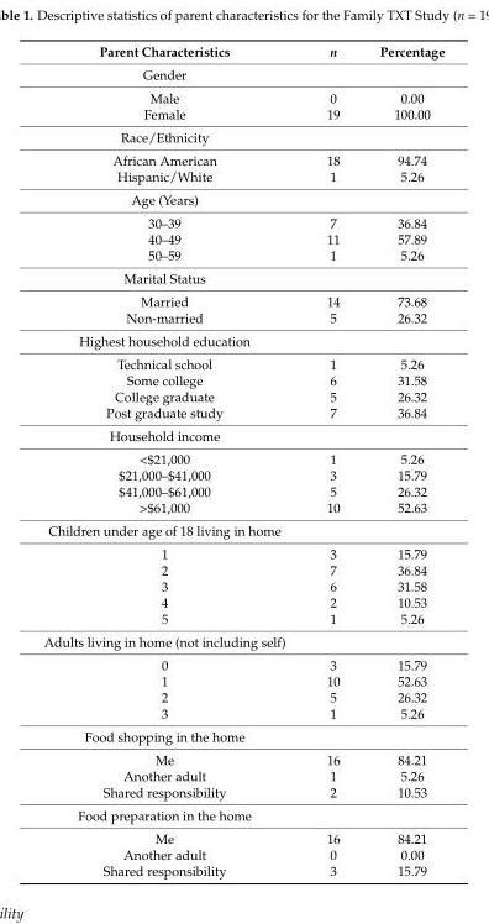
<table><thead><tr><td>Parent Characteristics</td><td>n</td><td>Percentage</td></tr></thead><tbody><tr><td colspan="3">Gender</td></tr><tr><td>Male</td><td>0</td><td>0.00</td></tr><tr><td>Female</td><td>19</td><td>100.00</td></tr><tr><td colspan="3">Race/Ethnicity</td></tr><tr><td>African American</td><td>18</td><td>94.74</td></tr><tr><td>Hispanic/White</td><td>1</td><td>5.26</td></tr><tr><td colspan="3">Age (Years)</td></tr><tr><td>30–39</td><td>7</td><td>36.84</td></tr><tr><td>40–49</td><td>11</td><td>57.89</td></tr><tr><td>50–59</td><td>1</td><td>5.26</td></tr><tr><td colspan="3">Marital Status</td></tr><tr><td>Married</td><td>14</td><td>73.68</td></tr><tr><td>Non-married</td><td>5</td><td>26.32</td></tr><tr><td colspan="3">Highest household education</td></tr><tr><td>Technical school</td><td>1</td><td>5.26</td></tr><tr><td>Some college</td><td>6</td><td>31.58</td></tr><tr><td>College graduate</td><td>5</td><td>26.32</td></tr><tr><td>Post graduate study</td><td>7</td><td>36.84</td></tr><tr><td colspan="3">Household income</td></tr><tr><td>&lt;$21,000</td><td>1</td><td>5.26</td></tr><tr><td>$21,000–$41,000</td><td>3</td><td>15.79</td></tr><tr><td>$41,000–$61,000</td><td>5</td><td>26.32</td></tr><tr><td>&gt;$61,000</td><td>10</td><td>52.63</td></tr><tr><td colspan="3">Children under age of 18 living in home</td></tr><tr><td>1</td><td>3</td><td>15.79</td></tr><tr><td>2</td><td>7</td><td>36.84</td></tr><tr><td>3</td><td>6</td><td>31.58</td></tr><tr><td>4</td><td>2</td><td>10.53</td></tr><tr><td>5</td><td>1</td><td>5.26</td></tr><tr><td colspan="3">Adults living in home (not including self)</td></tr><tr><td>0</td><td>3</td><td>15.79</td></tr><tr><td>1</td><td>10</td><td>52.63</td></tr><tr><td>2</td><td>5</td><td>26.32</td></tr><tr><td>3</td><td>1</td><td>5.26</td></tr><tr><td colspan="3">Food shopping in the home</td></tr><tr><td>Me</td><td>16</td><td>84.21</td></tr><tr><td>Another adult</td><td>1</td><td>5.26</td></tr><tr><td>Shared responsibility</td><td>2</td><td>10.53</td></tr><tr><td colspan="3">Food preparation in the home</td></tr><tr><td>Me</td><td>16</td><td>84.21</td></tr><tr><td>Another adult</td><td>0</td><td>0.00</td></tr><tr><td>Shared responsibility</td><td>3</td><td>15.79</td></tr></tbody></table>